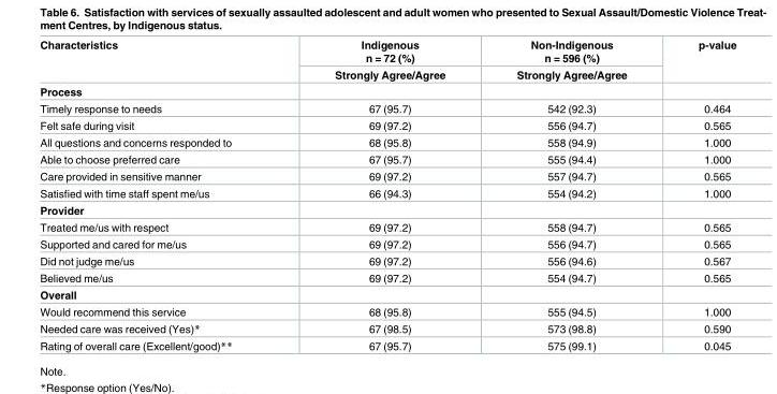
<table><thead><tr><td rowspan="2">Characteristics</td><td rowspan="2">Indigenous n = 72 (%) Strongly Agree/Agree</td><td rowspan="2">Non-Indigenous n = 596 (%) Strongly Agree/Agree</td><td rowspan="2">p-value</td></tr><tr></tr></thead><tbody><tr><td colspan="4">Process</td></tr><tr><td>Timely response to needs</td><td>67 (95.7)</td><td>542 (92.3)</td><td>0.464</td></tr><tr><td>Felt safe during visit</td><td>69 (97.2)</td><td>556 (94.7)</td><td>0.565</td></tr><tr><td>All questions and concerns responded to</td><td>68 (95.8)</td><td>558 (94.9)</td><td>1.000</td></tr><tr><td>Able to choose preferred care</td><td>67 (95.7)</td><td>555 (94.4)</td><td>1.000</td></tr><tr><td>Care provided in sensitive manner</td><td>69 (97.2)</td><td>557 (94.7)</td><td>0.565</td></tr><tr><td>Satisfied with time staff spent me/us</td><td>66 (94.3)</td><td>554 (94.2)</td><td>1.000</td></tr><tr><td colspan="4">Provider</td></tr><tr><td>Treated me/us with respect</td><td>69 (97.2)</td><td>558 (94.7)</td><td>0.565</td></tr><tr><td>Supported and cared for me/us</td><td>69 (97.2)</td><td>556 (94.7)</td><td>0.565</td></tr><tr><td>Did not judge me/us</td><td>69 (97.2)</td><td>556 (94.6)</td><td>0.567</td></tr><tr><td>Believed me/us</td><td>69 (97.2)</td><td>554 (94.7)</td><td>0.565</td></tr><tr><td colspan="4">Overall</td></tr><tr><td>Would recommend this service</td><td>68 (95.8)</td><td>555 (94.5)</td><td>1.000</td></tr><tr><td>Needed care was received (Yes)*</td><td>67 (98.5)</td><td>573 (98.8)</td><td>0.590</td></tr><tr><td>Rating of overall care (Excellent/good)**</td><td>67 (95.7)</td><td>575 (99.1)</td><td>0.045</td></tr></tbody></table>